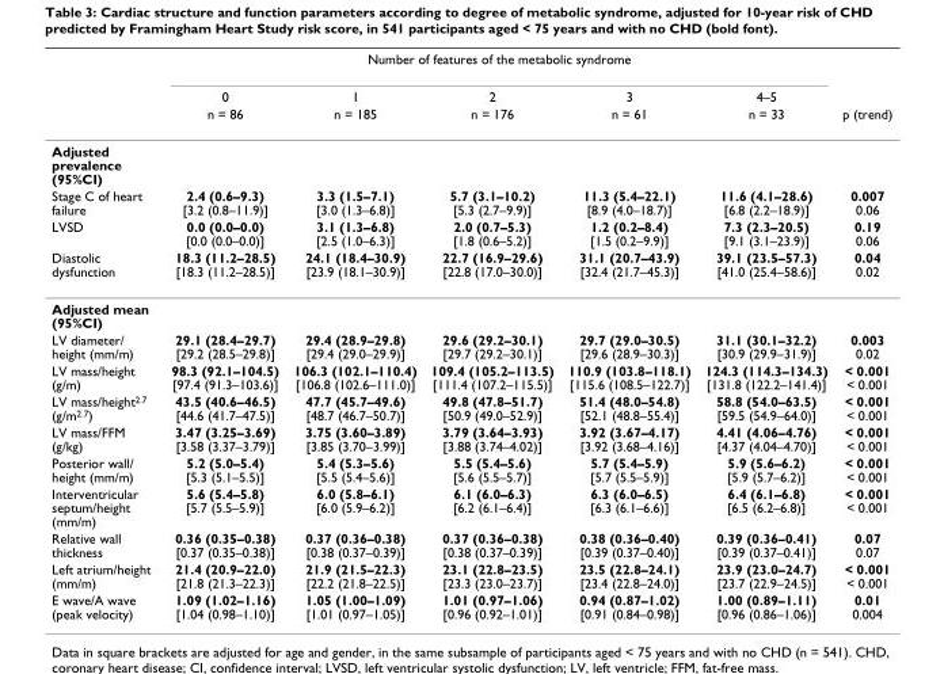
<table><thead><tr><td rowspan="3"></td><td colspan="5">Number of features of the metabolic syndrome</td><td rowspan="3">p (trend)</td></tr><tr><td rowspan="2">0 n = 86</td><td rowspan="2">1 n = 185</td><td rowspan="2">2 n = 176</td><td rowspan="2">3 n = 61</td><td rowspan="2">4–5 n = 33</td></tr><tr></tr></thead><tbody><tr><td colspan="7">Adjusted prevalence (95%CI)</td></tr><tr><td>Stage C of heart failure</td><td>2.4 (0.6–9.3) [3.2 (0.8–11.9)]</td><td>3.3 (1.5–7.1) [3.0 (1.3–6.8)]</td><td>5.7 (3.1–10.2) [5.3 (2.7–9.9)]</td><td>11.3 (5.4–22.1) [8.9 (4.0–18.7)]</td><td>11.6 (4.1–28.6) [6.8 (2.2–18.9)]</td><td>0.007 0.06</td></tr><tr><td>LVSD</td><td>0.0 (0.0–0.0) [0.0 (0.0–0.0)]</td><td>3.1 (1.3–6.8) [2.5 (1.0–6.3)]</td><td>2.0 (0.7–5.3) [1.8 (0.6–5.2)]</td><td>1.2 (0.2–8.4) [1.5 (0.2–9.9)]</td><td>7.3 (2.3–20.5) [9.1 (3.1–23.9)]</td><td>0.19 0.06</td></tr><tr><td>Diastolic dysfunction</td><td>18.3 (11.2–28.5) [18.3 (11.2–28.5)]</td><td>24.1 (18.4–30.9) [23.9 (18.1–30.9)]</td><td>22.7 (16.9–29.6) [22.8 (17.0–30.0)]</td><td>31.1 (20.7–43.9) [32.4 (21.7–45.3)]</td><td>39.1 (23.5–57.3) [41.0 (25.4–58.6)]</td><td>0.04 0.02</td></tr><tr><td colspan="7">Adjusted mean (95%CI)</td></tr><tr><td>LV diameter/ height (mm/m)</td><td>29.1 (28.4–29.7) [29.2 (28.5–29.8)]</td><td>29.4 (28.9–29.8) [29.4 (29.0–29.9)]</td><td>29.6 (29.2–30.1) [29.7 (29.2–30.1)]</td><td>29.7 (29.0–30.5) [29.6 (28.9–30.3)]</td><td>31.1 (30.1–32.2) [30.9 (29.9–31.9)]</td><td>0.003 0.02</td></tr><tr><td>LV mass/height (g/m)</td><td>98.3 (92.1–104.5) [97.4 (91.3–103.6)]</td><td>106.3 (102.1–110.4) [106.8 (102.6–111.0)]</td><td>109.4 (105.2–113.5) [111.4 (107.2–115.5)]</td><td>110.9 (103.8–118.1) [115.6 (108.5–122.7)]</td><td>124.3 (114.3–134.3) [131.8 (122.2–141.4)]</td><td>&lt; 0.001 &lt; 0.001</td></tr><tr><td>LV mass/height2.7 (g/m2.7)</td><td>43.5 (40.6–46.5) [44.6 (41.7–47.5)]</td><td>47.7 (45.7–49.6) [48.7 (46.7–50.7)]</td><td>49.8 (47.8–51.7) [50.9 (49.0–52.9)]</td><td>51.4 (48.0–54.8) [52.1 (48.8–55.4)]</td><td>58.8 (54.0–63.5) [59.5 (54.9–64.0)]</td><td>&lt; 0.001 &lt; 0.001</td></tr><tr><td>LV mass/FFM (g/kg)</td><td>3.47 (3.25–3.69) [3.58 (3.37–3.79)]</td><td>3.75 (3.60–3.89) [3.85 (3.70–3.99)]</td><td>3.79 (3.64–3.93) [3.88 (3.74–4.02)]</td><td>3.92 (3.67–4.17) [3.92 (3.68–4.16)]</td><td>4.41 (4.06–4.76) [4.37 (4.04–4.70)]</td><td>&lt; 0.001 &lt; 0.001</td></tr><tr><td>Posterior wall/ height (mm/m)</td><td>5.2 (5.0–5.4) [5.3 (5.1–5.5)]</td><td>5.4 (5.3–5.6) [5.5 (5.4–5.6)]</td><td>5.5 (5.4–5.6) [5.6 (5.5–5.7)]</td><td>5.7 (5.4–5.9) [5.7 (5.5–5.9)]</td><td>5.9 (5.6–6.2) [5.9 (5.7–6.2)]</td><td>&lt; 0.001 &lt; 0.001</td></tr><tr><td>Interventricular septum/height (mm/m)</td><td>5.6 (5.4–5.8) [5.7 (5.5–5.9)]</td><td>6.0 (5.8–6.1) [6.0 (5.9–6.2)]</td><td>6.1 (6.0–6.3) [6.2 (6.1–6.4)]</td><td>6.3 (6.0–6.5) [6.3 (6.1–6.6)]</td><td>6.4 (6.1–6.8) [6.5 (6.2–6.8)]</td><td>&lt; 0.001 &lt; 0.001</td></tr><tr><td>Relative wall thickness</td><td>0.36 (0.35–0.38) [0.37 (0.35–0.38)]</td><td>0.37 (0.36–0.38) [0.38 (0.37–0.39)]</td><td>0.37 (0.36–0.38) [0.38 (0.37–0.39)]</td><td>0.38 (0.36–0.40) [0.39 (0.37–0.40)]</td><td>0.39 (0.36–0.41) [0.39 (0.37–0.41)]</td><td>0.07 0.07</td></tr><tr><td>Left atrium/height (mm/m)</td><td>21.4 (20.9–22.0) [21.8 (21.3–22.3)]</td><td>21.9 (21.5–22.3) [22.2 (21.8–22.5)]</td><td>23.1 (22.8–23.5) [23.3 (23.0–23.7)]</td><td>23.5 (22.8–24.1) [23.4 (22.8–24.0)]</td><td>23.9 (23.0–24.7) [23.7 (22.9–24.5)]</td><td>&lt; 0.001 &lt; 0.001</td></tr><tr><td>E wave/A wave (peak velocity)</td><td>1.09 (1.02–1.16) [1.04 (0.98–1.10)]</td><td>1.05 (1.00–1.09) [1.01 (0.97–1.05)]</td><td>1.01 (0.97–1.06) [0.96 (0.92–1.01)]</td><td>0.94 (0.87–1.02) [0.91 (0.84–0.98)]</td><td>1.00 (0.89–1.11) [0.96 (0.86–1.06)]</td><td>0.01 0.004</td></tr></tbody></table>